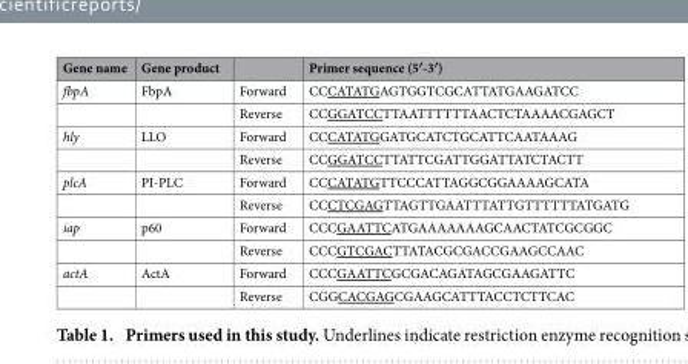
<table><thead><tr><td>Gene name</td><td>Gene product</td><td></td><td>Primer sequence (5′-3′)</td></tr></thead><tbody><tr><td rowspan="2">fbpA</td><td>FbpA</td><td>Forward</td><td>CCCATATGAGTGGTCGCATTATGAAGATCC</td></tr><tr><td></td><td>Reverse</td><td>CCGGATCCTTAATTTTTTAACTCTAAAACGAGCT</td></tr><tr><td rowspan="2">hly</td><td>LLO</td><td>Forward</td><td>CCCATATGGATGCATCTGCATTCAATAAAG</td></tr><tr><td></td><td>Reverse</td><td>CCGGATCCTTATTCGATTGGATTATCTACTT</td></tr><tr><td rowspan="2">plcA</td><td>PI-PLC</td><td>Forward</td><td>CCCATATGTTCCCATTAGGCGGAAAAGCATA</td></tr><tr><td></td><td>Reverse</td><td>CCCTCGAGTTAGTTGAATTTATTGTTTTTTATGATG</td></tr><tr><td rowspan="2">iap</td><td>p60</td><td>Forward</td><td>CCCGAATTCATGAAAAAAAGCAACTATCGCGGC</td></tr><tr><td></td><td>Reverse</td><td>CCCGTCGACTTATACGCGACCGAAGCCAAC</td></tr><tr><td rowspan="2">actA</td><td>ActA</td><td>Forward</td><td>CCCGAATTCGCGACAGATAGCGAAGATTC</td></tr><tr><td></td><td>Reverse</td><td>CGGCACGAGCGAAGCATTTACCTCTTCAC</td></tr></tbody></table>